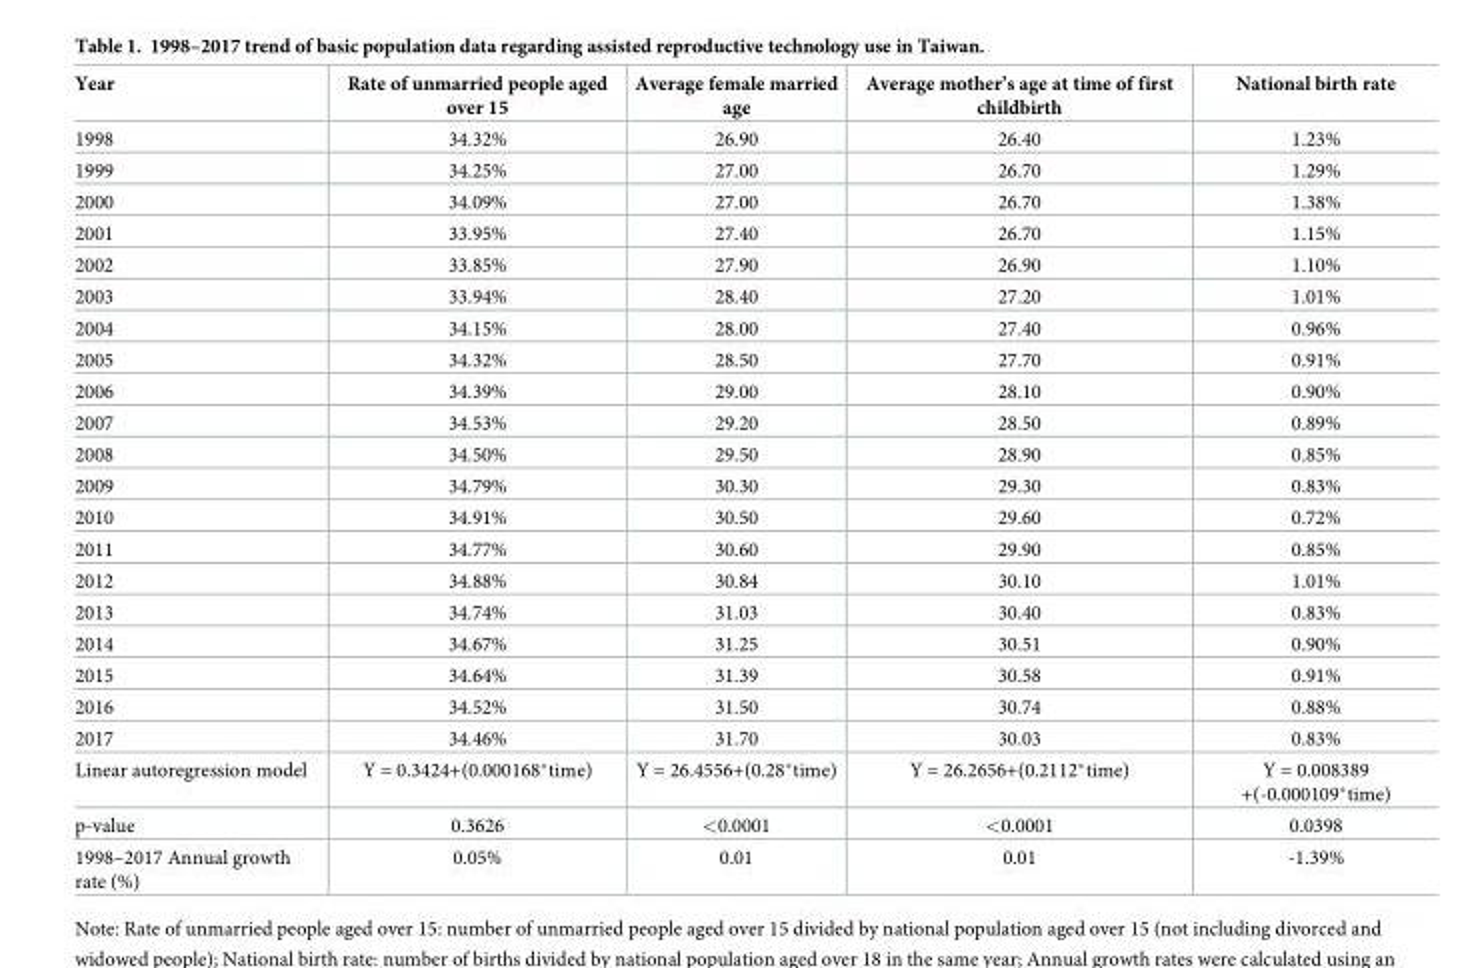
<table><thead><tr><td>Year</td><td>Rate of unmarried people aged over 15</td><td>Average female married age</td><td>Average mother’s age at time of first childbirth</td><td>National birth rate</td></tr></thead><tbody><tr><td>1998</td><td>34.32%</td><td>26.90</td><td>26.40</td><td>1.23%</td></tr><tr><td>1999</td><td>34.25%</td><td>27.00</td><td>26.70</td><td>1.29%</td></tr><tr><td>2000</td><td>34.09%</td><td>27.00</td><td>26.70</td><td>1.38%</td></tr><tr><td>2001</td><td>33.95%</td><td>27.40</td><td>26.70</td><td>1.15%</td></tr><tr><td>2002</td><td>33.85%</td><td>27.90</td><td>26.90</td><td>1.10%</td></tr><tr><td>2003</td><td>33.94%</td><td>28.40</td><td>27.20</td><td>1.01%</td></tr><tr><td>2004</td><td>34.15%</td><td>28.00</td><td>27.40</td><td>0.96%</td></tr><tr><td>2005</td><td>34.32%</td><td>28.50</td><td>27.70</td><td>0.91%</td></tr><tr><td>2006</td><td>34.39%</td><td>29.00</td><td>28.10</td><td>0.90%</td></tr><tr><td>2007</td><td>34.53%</td><td>29.20</td><td>28.50</td><td>0.89%</td></tr><tr><td>2008</td><td>34.50%</td><td>29.50</td><td>28.90</td><td>0.85%</td></tr><tr><td>2009</td><td>34.79%</td><td>30.30</td><td>29.30</td><td>0.83%</td></tr><tr><td>2010</td><td>34.91%</td><td>30.50</td><td>29.60</td><td>0.72%</td></tr><tr><td>2011</td><td>34.77%</td><td>30.60</td><td>29.90</td><td>0.85%</td></tr><tr><td>2012</td><td>34.88%</td><td>30.84</td><td>30.10</td><td>1.01%</td></tr><tr><td>2013</td><td>34.74%</td><td>31.03</td><td>30.40</td><td>0.83%</td></tr><tr><td>2014</td><td>34.67%</td><td>31.25</td><td>30.51</td><td>0.90%</td></tr><tr><td>2015</td><td>34.64%</td><td>31.39</td><td>30.58</td><td>0.91%</td></tr><tr><td>2016</td><td>34.52%</td><td>31.50</td><td>30.74</td><td>0.88%</td></tr><tr><td>2017</td><td>34.46%</td><td>31.70</td><td>30.03</td><td>0.83%</td></tr><tr><td>Linear autoregression model</td><td>Y = 0.3424+(0.000168*time)</td><td>Y = 26.4556+(0.28*time)</td><td>Y = 26.2656+(0.2112*time)</td><td>Y = 0.008389 +(-0.000109*time)</td></tr><tr><td>p-value</td><td>0.3626</td><td>&lt;0.0001</td><td>&lt;0.0001</td><td>0.0398</td></tr><tr><td>1998–2017 Annual growth rate (%)</td><td>0.05%</td><td>0.01</td><td>0.01</td><td>-1.39%</td></tr></tbody></table>